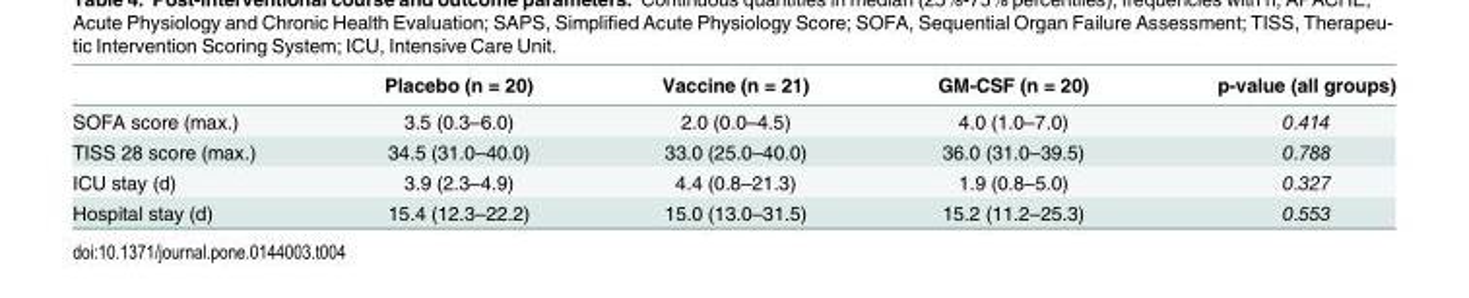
<table><thead><tr><td></td><td>Placebo (n = 20)</td><td>Vaccine (n = 21)</td><td>GM-CSF (n = 20)</td><td>p-value (all groups)</td></tr></thead><tbody><tr><td>SOFA score (max.)</td><td>3.5 (0.3–6.0)</td><td>2.0 (0.0–4.5)</td><td>4.0 (1.0–7.0)</td><td>0.414</td></tr><tr><td>TISS 28 score (max.)</td><td>34.5 (31.0–40.0)</td><td>33.0 (25.0–40.0)</td><td>36.0 (31.0–39.5)</td><td>0.788</td></tr><tr><td>ICU stay (d)</td><td>3.9 (2.3–4.9)</td><td>4.4 (0.8–21.3)</td><td>1.9 (0.8–5.0)</td><td>0.327</td></tr><tr><td>Hospital stay (d)</td><td>15.4 (12.3–22.2)</td><td>15.0 (13.0–31.5)</td><td>15.2 (11.2–25.3)</td><td>0.553</td></tr></tbody></table>